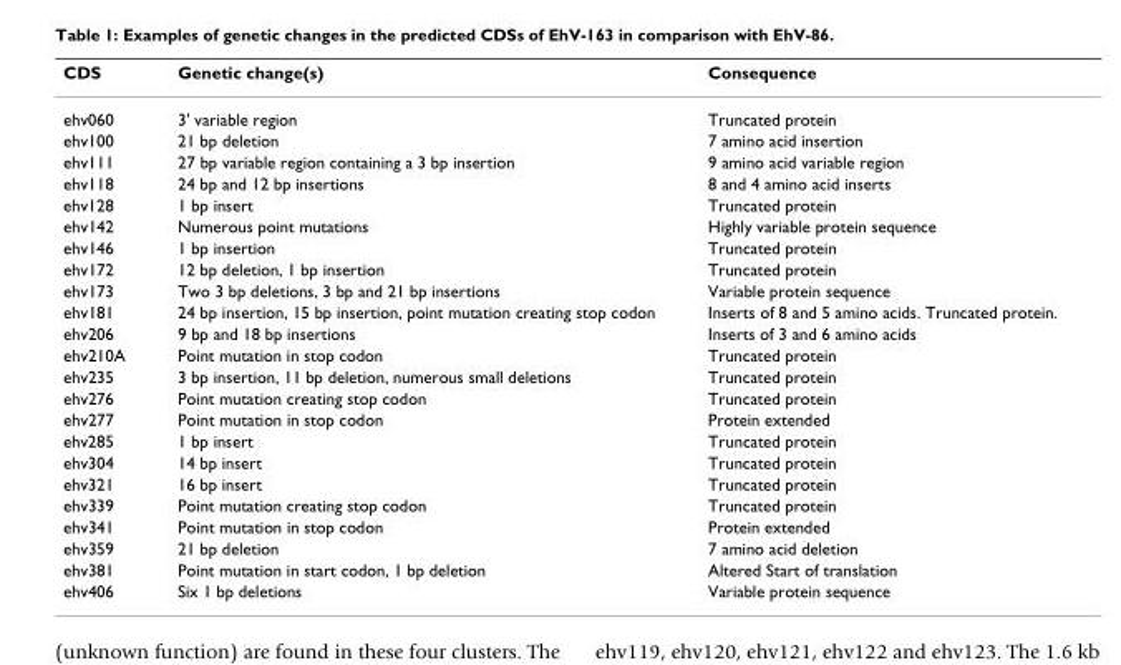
<table><thead><tr><td>CDS</td><td>Genetic change(s)</td><td>Consequence</td></tr></thead><tbody><tr><td>ehv060</td><td>3&#x27; variable region</td><td>Truncated protein</td></tr><tr><td>ehv100</td><td>21 bp deletion</td><td>7 amino acid insertion</td></tr><tr><td>ehv111</td><td>27 bp variable region containing a 3 bp insertion</td><td>9 amino acid variable region</td></tr><tr><td>ehv118</td><td>24 bp and 12 bp insertions</td><td>8 and 4 amino acid inserts</td></tr><tr><td>ehv128</td><td>1 bp insert</td><td>Truncated protein</td></tr><tr><td>ehv142</td><td>Numerous point mutations</td><td>Highly variable protein sequence</td></tr><tr><td>ehv146</td><td>1 bp insertion</td><td>Truncated protein</td></tr><tr><td>ehv172</td><td>12 bp deletion, 1 bp insertion</td><td>Truncated protein</td></tr><tr><td>ehv173</td><td>Two 3 bp deletions, 3 bp and 21 bp insertions</td><td>Variable protein sequence</td></tr><tr><td>ehv181</td><td>24 bp insertion, 15 bp insertion, point mutation creating stop codon</td><td>Inserts of 8 and 5 amino acids. Truncated protein.</td></tr><tr><td>ehv206</td><td>9 bp and 18 bp insertions</td><td>Inserts of 3 and 6 amino acids</td></tr><tr><td>ehv210A</td><td>Point mutation in stop codon</td><td>Truncated protein</td></tr><tr><td>ehv235</td><td>3 bp insertion, 11 bp deletion, numerous small deletions</td><td>Truncated protein</td></tr><tr><td>ehv276</td><td>Point mutation creating stop codon</td><td>Truncated protein</td></tr><tr><td>ehv277</td><td>Point mutation in stop codon</td><td>Protein extended</td></tr><tr><td>ehv285</td><td>1 bp insert</td><td>Truncated protein</td></tr><tr><td>ehv304</td><td>14 bp insert</td><td>Truncated protein</td></tr><tr><td>ehv321</td><td>16 bp insert</td><td>Truncated protein</td></tr><tr><td>ehv339</td><td>Point mutation creating stop codon</td><td>Truncated protein</td></tr><tr><td>ehv341</td><td>Point mutation in stop codon</td><td>Protein extended</td></tr><tr><td>ehv359</td><td>21 bp deletion</td><td>7 amino acid deletion</td></tr><tr><td>ehv381</td><td>Point mutation in start codon, 1 bp deletion</td><td>Altered Start of translation</td></tr><tr><td>ehv406</td><td>Six 1 bp deletions</td><td>Variable protein sequence</td></tr></tbody></table>